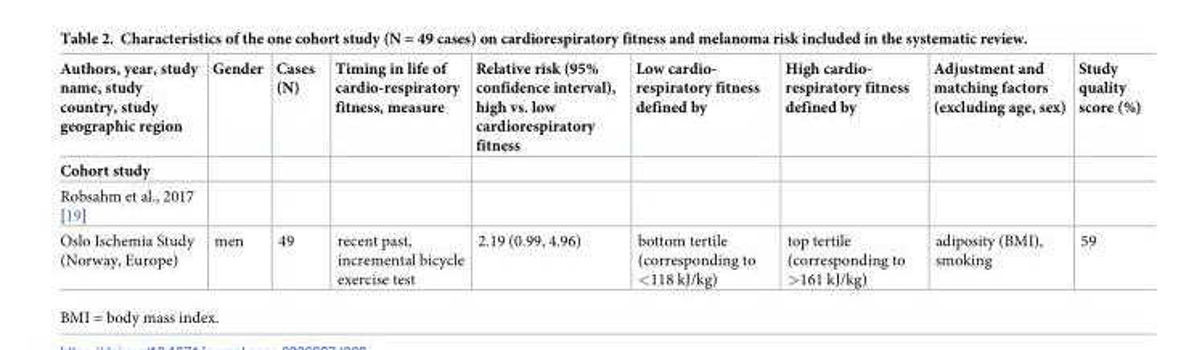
<table><thead><tr><td>Authors, year, study name, study country, study geographic region</td><td>Gender</td><td>Cases (N)</td><td>Timing in life of cardio-respiratory fitness, measure</td><td>Relative risk (95% confidence interval), high vs. low cardiorespiratory fitness</td><td>Low cardio- respiratory fitness defined by</td><td>High cardio- respiratory fitness defined by</td><td>Adjustment and matching factors (excluding age, sex)</td><td>Study quality score (%)</td></tr></thead><tbody><tr><td colspan="9">Cohort study</td></tr><tr><td colspan="9">Robsahm et al., 2017 [19]</td></tr><tr><td>Oslo Ischemia Study (Norway, Europe)</td><td>men</td><td>49</td><td>recent past, incremental bicycle exercise test</td><td>2.19 (0.99, 4.96)</td><td>bottom tertile (corresponding to &lt;118 kJ/kg)</td><td>top tertile (corresponding to &gt;161 kJ/kg)</td><td>adiposity (BMI), smoking</td><td>59</td></tr></tbody></table>